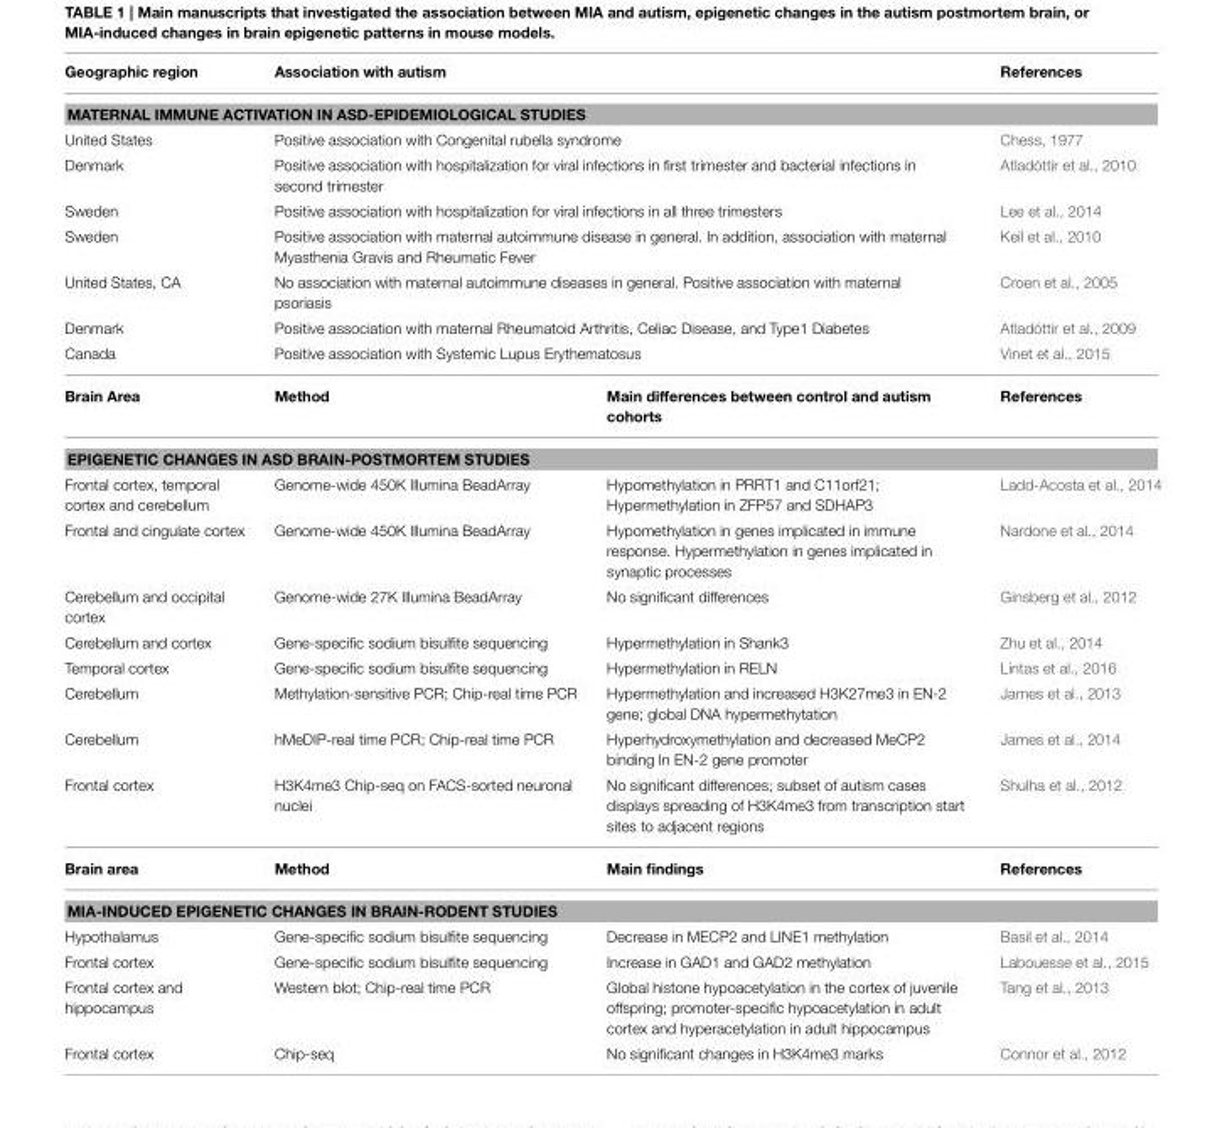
<table><thead><tr><td>Geographic region</td><td colspan="2">Association with autism</td><td>References</td></tr></thead><tbody><tr><td colspan="4">MATERNAL IMMUNE ACTIVATION IN ASD-EPIDEMIOLOGICAL STUDIES</td></tr><tr><td>United States</td><td colspan="2">Positive association with Congenital rubella syndrome</td><td>Chess, 1977</td></tr><tr><td>Denmark</td><td colspan="2">Positive association with hospitalization for viral infections in first trimester and bacterial infections in second trimester</td><td>Atladóttir et al., 2010</td></tr><tr><td>Sweden</td><td colspan="2">Positive association with hospitalization for viral infections in all three trimesters</td><td>Lee et al., 2014</td></tr><tr><td>Sweden</td><td colspan="2">Positive association with maternal autoimmune disease in general. In addition, association with maternal Myasthenia Gravis and Rheumatic Fever</td><td>Keil et al., 2010</td></tr><tr><td>United States, CA</td><td colspan="2">No association with maternal autoimmune diseases in general. Positive association with maternal psoriasis</td><td>Croen et al., 2005</td></tr><tr><td>Denmark</td><td colspan="2">Positive association with maternal Rheumatoid Arthritis, Celiac Disease, and Type1 Diabetes</td><td>Atladóttir et al., 2009</td></tr><tr><td>Canada</td><td colspan="2">Positive association with Systemic Lupus Erythematosus</td><td>Vinet et al., 2015</td></tr><tr><td>Brain Area</td><td>Method</td><td>Main differences between control and autism cohorts</td><td>References</td></tr><tr><td colspan="4">EPIGENETIC CHANGES IN ASD BRAIN-POSTMORTEM STUDIES</td></tr><tr><td>Frontal cortex, temporal cortex and cerebellum</td><td>Genome-wide 450K Illumina BeadArray</td><td>Hypomethylation in PRRT1 and C11orf21; Hypermethylation in ZFP57 and SDHAP3</td><td>Ladd-Acosta et al., 2014</td></tr><tr><td>Frontal and cingulate cortex</td><td>Genome-wide 450K Illumina BeadArray</td><td>Hypomethylation in genes implicated in immune response. Hypermethylation in genes implicated in synaptic processes</td><td>Nardone et al., 2014</td></tr><tr><td>Cerebellum and occipital cortex</td><td>Genome-wide 27K Illumina BeadArray</td><td>No significant differences</td><td>Ginsberg et al., 2012</td></tr><tr><td>Cerebellum and cortex</td><td>Gene-specific sodium bisulfite sequencing</td><td>Hypermethylation in Shank3</td><td>Zhu et al., 2014</td></tr><tr><td>Temporal cortex</td><td>Gene-specific sodium bisulfite sequencing</td><td>Hypermethylation in RELN</td><td>Lintas et al., 2016</td></tr><tr><td>Cerebellum</td><td>Methylation-sensitive PCR; Chip-real time PCR</td><td>Hypermethylation and increased H3K27me3 in EN-2 gene; global DNA hypermethytation</td><td>James et al., 2013</td></tr><tr><td>Cerebellum</td><td>hMeDIP-real time PCR; Chip-real time PCR</td><td>Hyperhydroxymethylation and decreased MeCP2 binding In EN-2 gene promoter</td><td>James et al., 2014</td></tr><tr><td>Frontal cortex</td><td>H3K4me3 Chip-seq on FACS-sorted neuronal nuclei</td><td>No significant differences; subset of autism cases displays spreading of H3K4me3 from transcription start sites to adjacent regions</td><td>Shulha et al., 2012</td></tr><tr><td>Brain area</td><td>Method</td><td>Main findings</td><td>References</td></tr><tr><td colspan="4">MIA-INDUCED EPIGENETIC CHANGES IN BRAIN-RODENT STUDIES</td></tr><tr><td>Hypothalamus</td><td>Gene-specific sodium bisulfite sequencing</td><td>Decrease in MECP2 and LINE1 methylation</td><td>Basil et al., 2014</td></tr><tr><td>Frontal cortex</td><td>Gene-specific sodium bisulfite sequencing</td><td>Increase in GAD1 and GAD2 methylation</td><td>Labouesse et al., 2015</td></tr><tr><td>Frontal cortex and hippocampus</td><td>Western blot; Chip-real time PCR</td><td>Global histone hypoacetylation in the cortex of juvenile offspring; promoter-specific hypoacetylation in adult cortex and hyperacetylation in adult hippocampus</td><td>Tang et al., 2013</td></tr><tr><td>Frontal cortex</td><td>Chip-seq</td><td>No significant changes in H3K4me3 marks</td><td>Connor et al., 2012</td></tr></tbody></table>